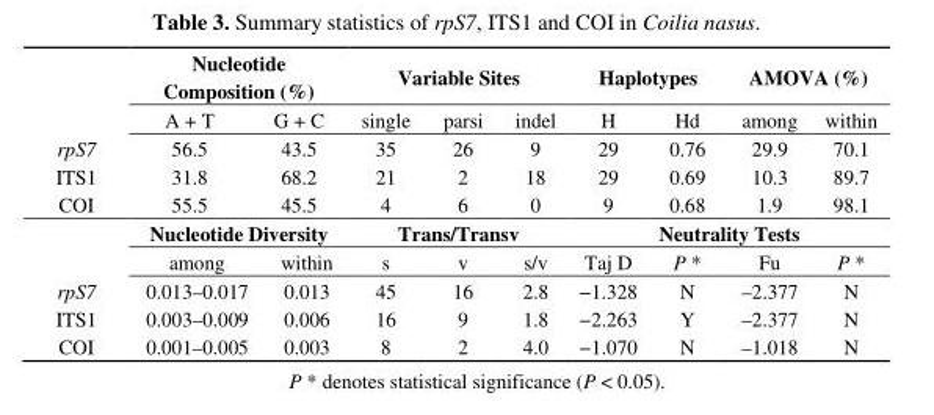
<table><thead><tr><td rowspan="2"></td><td colspan="2">Nucleotide Composition (%)</td><td colspan="3">Variable Sites</td><td colspan="2">Haplotypes</td><td colspan="2">AMOVA (%)</td></tr><tr><td>A + T</td><td>G + C</td><td>single</td><td>parsi</td><td>indel</td><td>H</td><td>Hd</td><td>among</td><td>within</td></tr></thead><tbody><tr><td>rpS7</td><td>56.5</td><td>43.5</td><td>35</td><td>26</td><td>9</td><td>29</td><td>0.76</td><td>29.9</td><td>70.1</td></tr><tr><td>ITS1</td><td>31.8</td><td>68.2</td><td>21</td><td>2</td><td>18</td><td>29</td><td>0.69</td><td>10.3</td><td>89.7</td></tr><tr><td rowspan="3">COI</td><td>55.5</td><td>45.5</td><td>4</td><td>6</td><td>0</td><td>9</td><td>0.68</td><td>1.9</td><td>98.1</td></tr><tr><td colspan="2">Nucleotide Diversity</td><td colspan="3">Trans/Transv</td><td colspan="4">Neutrality Tests</td></tr><tr><td>among</td><td>within</td><td>s</td><td>v</td><td>s/v</td><td>Taj D</td><td>P *</td><td>Fu</td><td>P *</td></tr><tr><td>rpS7</td><td>0.013–0.017</td><td>0.013</td><td>45</td><td>16</td><td>2.8</td><td>−1.328</td><td>N</td><td>–2.377</td><td>N</td></tr><tr><td>ITS1</td><td>0.003–0.009</td><td>0.006</td><td>16</td><td>9</td><td>1.8</td><td>−2.263</td><td>Y</td><td>–2.377</td><td>N</td></tr><tr><td>COI</td><td>0.001–0.005</td><td>0.003</td><td>8</td><td>2</td><td>4.0</td><td>−1.070</td><td>N</td><td>–1.018</td><td>N</td></tr></tbody></table>